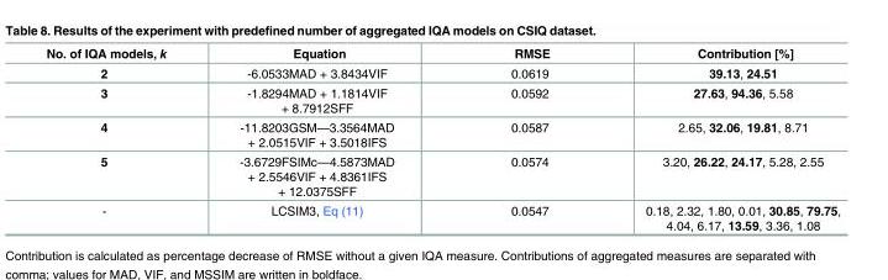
<table><thead><tr><td>No. of IQA models, k</td><td>Equation</td><td>RMSE</td><td>Contribution [%]</td></tr></thead><tbody><tr><td>2</td><td>-6.0533MAD + 3.8434VIF</td><td>0.0619</td><td>39.13, 24.51</td></tr><tr><td>3</td><td>-1.8294MAD + 1.1814VIF + 8.7912SFF</td><td>0.0592</td><td>27.63, 94.36, 5.58</td></tr><tr><td>4</td><td>-11.8203GSM—3.3564MAD + 2.0515VIF + 3.5018IFS</td><td>0.0587</td><td>2.65, 32.06, 19.81, 8.71</td></tr><tr><td>5</td><td>-3.6729FSIMc—4.5873MAD + 2.5546VIF + 4.8361IFS + 12.0375SFF</td><td>0.0574</td><td>3.20, 26.22, 24.17, 5.28, 2.55</td></tr><tr><td>-</td><td>LCSIM3, Eq (11)</td><td>0.0547</td><td>0.18, 2.32, 1.80, 0.01, 30.85, 79.75, 4.04, 6.17, 13.59, 3.36, 1.08</td></tr></tbody></table>